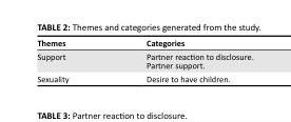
<table><thead><tr><td>Themes</td><td>Categories</td></tr></thead><tbody><tr><td>Support</td><td>Partner reaction to disclosure. Partner support.</td></tr><tr><td>Sexuality</td><td>Desire to have children.</td></tr></tbody></table>